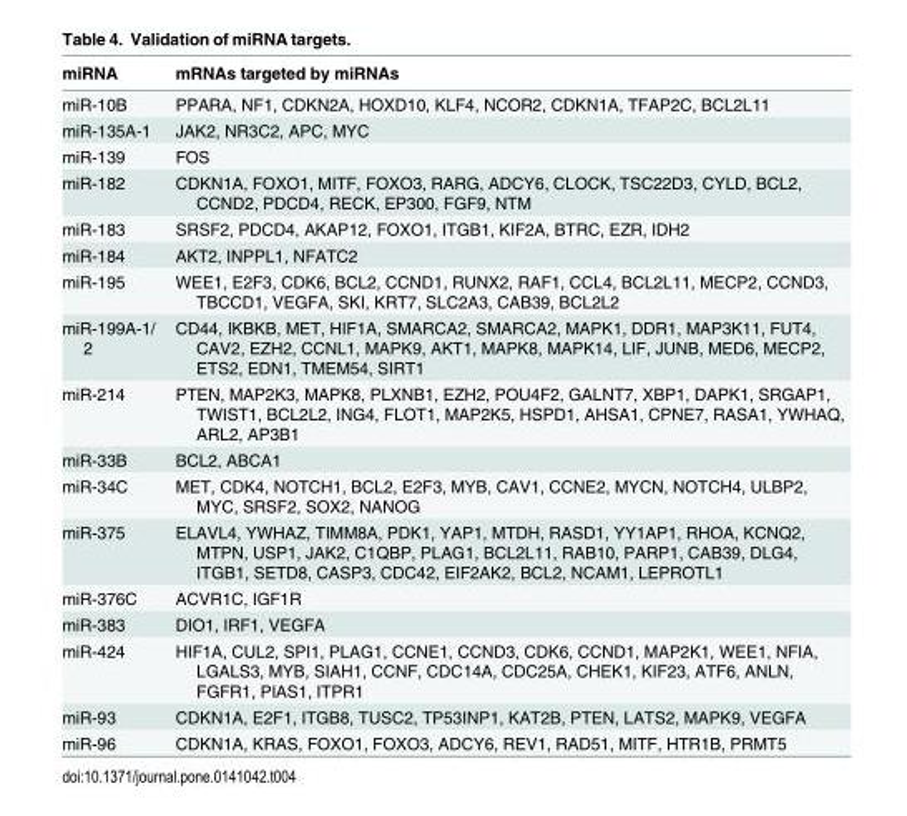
<table><thead><tr><td>miRNA</td><td>mRNAs targeted by miRNAs</td></tr></thead><tbody><tr><td>miR-10B</td><td>PPARA, NF1, CDKN2A, HOXD10, KLF4, NCOR2, CDKN1A, TFAP2C, BCL2L11</td></tr><tr><td>miR-135A-1</td><td>JAK2, NR3C2, APC, MYC</td></tr><tr><td>miR-139</td><td>FOS</td></tr><tr><td>miR-182</td><td>CDKN1A, FOXO1, MITF, FOXO3, RARG, ADCY6, CLOCK, TSC22D3, CYLD, BCL2, CCND2, PDCD4, RECK, EP300, FGF9, NTM</td></tr><tr><td>miR-183</td><td>SRSF2, PDCD4, AKAP12, FOXO1, ITGB1, KIF2A, BTRC, EZR, IDH2</td></tr><tr><td>miR-184</td><td>AKT2, INPPL1, NFATC2</td></tr><tr><td>miR-195</td><td>WEE1, E2F3, CDK6, BCL2, CCND1, RUNX2, RAF1, CCL4, BCL2L11, MECP2, CCND3, TBCCD1, VEGFA, SKI, KRT7, SLC2A3, CAB39, BCL2L2</td></tr><tr><td>miR-199A-1/ 2</td><td>CD44, IKBKB, MET, HIF1A, SMARCA2, SMARCA2, MAPK1, DDR1, MAP3K11, FUT4, CAV2, EZH2, CCNL1, MAPK9, AKT1, MAPK8, MAPK14, LIF, JUNB, MED6, MECP2, ETS2, EDN1, TMEM54, SIRT1</td></tr><tr><td>miR-214</td><td>PTEN, MAP2K3, MAPK8, PLXNB1, EZH2, POU4F2, GALNT7, XBP1, DAPK1, SRGAP1, TWIST1, BCL2L2, ING4, FLOT1, MAP2K5, HSPD1, AHSA1, CPNE7, RASA1, YWHAQ, ARL2, AP3B1</td></tr><tr><td>miR-33B</td><td>BCL2, ABCA1</td></tr><tr><td>miR-34C</td><td>MET, CDK4, NOTCH1, BCL2, E2F3, MYB, CAV1, CCNE2, MYCN, NOTCH4, ULBP2, MYC, SRSF2, SOX2, NANOG</td></tr><tr><td>miR-375</td><td>ELAVL4, YWHAZ, TIMM8A, PDK1, YAP1, MTDH, RASD1, YY1AP1, RHOA, KCNQ2, MTPN, USP1, JAK2, C1QBP, PLAG1, BCL2L11, RAB10, PARP1, CAB39, DLG4, ITGB1, SETD8, CASP3, CDC42, EIF2AK2, BCL2, NCAM1, LEPROTL1</td></tr><tr><td>miR-376C</td><td>ACVR1C, IGF1R</td></tr><tr><td>miR-383</td><td>DIO1, IRF1, VEGFA</td></tr><tr><td>miR-424</td><td>HIF1A, CUL2, SPI1, PLAG1, CCNE1, CCND3, CDK6, CCND1, MAP2K1, WEE1, NFIA, LGALS3, MYB, SIAH1, CCNF, CDC14A, CDC25A, CHEK1, KIF23, ATF6, ANLN, FGFR1, PIAS1, ITPR1</td></tr><tr><td>miR-93</td><td>CDKN1A, E2F1, ITGB8, TUSC2, TP53INP1, KAT2B, PTEN, LATS2, MAPK9, VEGFA</td></tr><tr><td>miR-96</td><td>CDKN1A, KRAS, FOXO1, FOXO3, ADCY6, REV1, RAD51, MITF, HTR1B, PRMT5</td></tr></tbody></table>